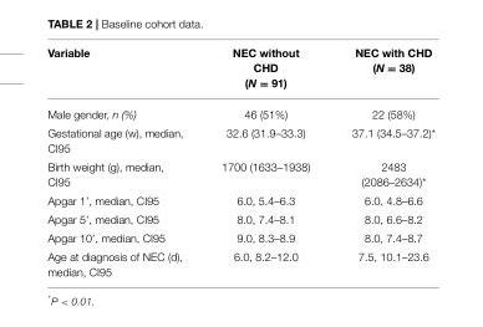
<table><thead><tr><td>Variable</td><td>NEC without CHD (N = 91)</td><td>NEC with CHD (N = 38)</td></tr></thead><tbody><tr><td>Male gender, n (%)</td><td>46 (51%)</td><td>22 (58%)</td></tr><tr><td>Gestational age (w), median, CI95</td><td>32.6 (31.9–33.3)</td><td>37.1 (34.5–37.2)*</td></tr><tr><td>Birth weight (g), median, CI95</td><td>1700 (1633–1938)</td><td>2483 (2086–2634)*</td></tr><tr><td>Apgar 1’, median, CI95</td><td>6.0, 5.4–6.3</td><td>6.0, 4.8–6.6</td></tr><tr><td>Apgar 5’, median, CI95</td><td>8.0, 7.4–8.1</td><td>8.0, 6.6–8.2</td></tr><tr><td>Apgar 10’, median, CI95</td><td>9.0, 8.3–8.9</td><td>8.0, 7.4–8.7</td></tr><tr><td>Age at diagnosis of NEC (d), median, CI95</td><td>6.0, 8.2–12.0</td><td>7.5, 10.1–23.6</td></tr></tbody></table>